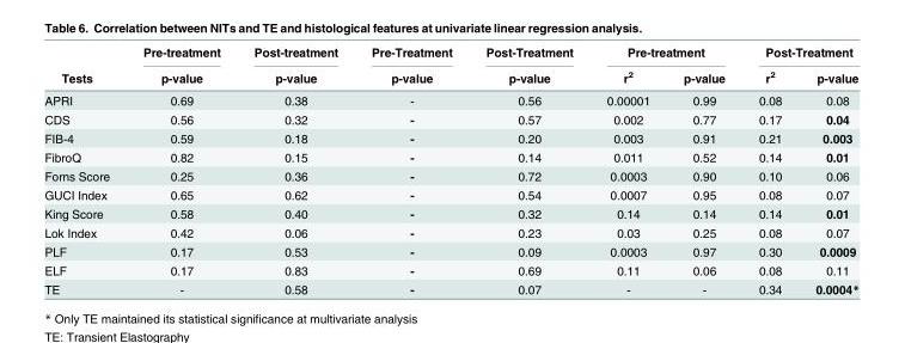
<table><thead><tr><td rowspan="2">Tests</td><td rowspan="2">Pre-treatment p-value</td><td rowspan="2">Post-treatment p-value</td><td rowspan="2">Pre-Treatment p-value</td><td rowspan="2">Post-Treatment p-value</td><td colspan="2">Pre-treatment</td><td colspan="2">Post-Treatment</td></tr><tr><td>r<sup>2</sup></td><td>p-value</td><td>r<sup>2</sup></td><td>p-value</td></tr></thead><tbody><tr><td>APRI</td><td>0.69</td><td>0.38</td><td>-</td><td>0.56</td><td>0.00001</td><td>0.99</td><td>0.08</td><td>0.08</td></tr><tr><td>CDS</td><td>0.56</td><td>0.32</td><td>-</td><td>0.57</td><td>0.002</td><td>0.77</td><td>0.17</td><td>0.04</td></tr><tr><td>FIB-4</td><td>0.59</td><td>0.18</td><td>-</td><td>0.20</td><td>0.003</td><td>0.91</td><td>0.21</td><td>0.003</td></tr><tr><td>FibroQ</td><td>0.82</td><td>0.15</td><td>-</td><td>0.14</td><td>0.011</td><td>0.52</td><td>0.14</td><td>0.01</td></tr><tr><td>Forns Score</td><td>0.25</td><td>0.36</td><td>-</td><td>0.72</td><td>0.0003</td><td>0.90</td><td>0.10</td><td>0.06</td></tr><tr><td>GUCI Index</td><td>0.65</td><td>0.62</td><td>-</td><td>0.54</td><td>0.0007</td><td>0.95</td><td>0.08</td><td>0.07</td></tr><tr><td>King Score</td><td>0.58</td><td>0.40</td><td>-</td><td>0.32</td><td>0.14</td><td>0.14</td><td>0.14</td><td>0.01</td></tr><tr><td>Lok Index</td><td>0.42</td><td>0.06</td><td>-</td><td>0.23</td><td>0.03</td><td>0.25</td><td>0.08</td><td>0.07</td></tr><tr><td>PLF</td><td>0.17</td><td>0.53</td><td>-</td><td>0.09</td><td>0.0003</td><td>0.97</td><td>0.30</td><td>0.0009</td></tr><tr><td>ELF</td><td>0.17</td><td>0.83</td><td>-</td><td>0.69</td><td>0.11</td><td>0.06</td><td>0.08</td><td>0.11</td></tr><tr><td>TE</td><td>-</td><td>0.58</td><td>-</td><td>0.07</td><td>-</td><td>-</td><td>0.34</td><td>0.0004*</td></tr></tbody></table>